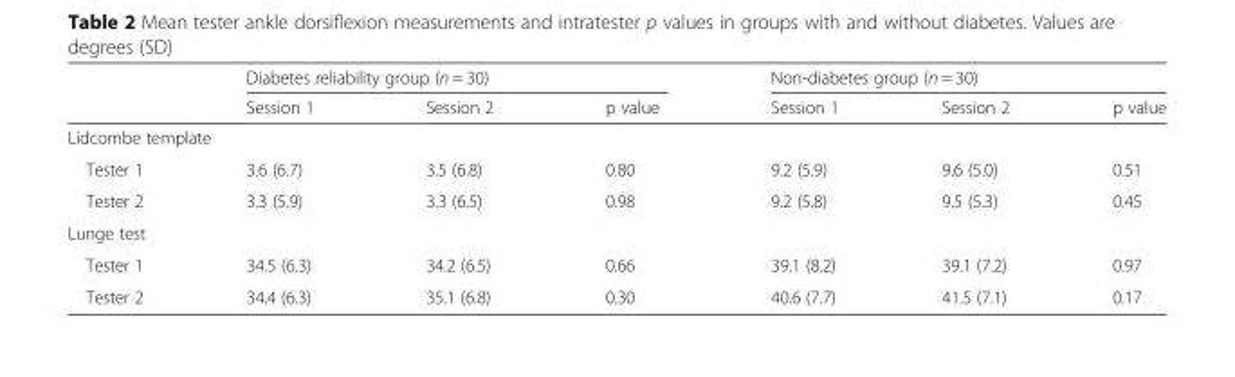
<table><thead><tr><td rowspan="2"></td><td colspan="3">Diabetes reliability group (n = 30)</td><td colspan="3">Non-diabetes group (n = 30)</td></tr><tr><td>Session 1</td><td>Session 2</td><td>p value</td><td>Session 1</td><td>Session 2</td><td>p value</td></tr></thead><tbody><tr><td colspan="7">Lidcombe template</td></tr><tr><td>Tester 1</td><td>3.6 (6.7)</td><td>3.5 (6.8)</td><td>0.80</td><td>9.2 (5.9)</td><td>9.6 (5.0)</td><td>0.51</td></tr><tr><td>Tester 2</td><td>3.3 (5.9)</td><td>3.3 (6.5)</td><td>0.98</td><td>9.2 (5.8)</td><td>9.5 (5.3)</td><td>0.45</td></tr><tr><td colspan="7">Lunge test</td></tr><tr><td>Tester 1</td><td>34.5 (6.3)</td><td>34.2 (6.5)</td><td>0.66</td><td>39.1 (8.2)</td><td>39.1 (7.2)</td><td>0.97</td></tr><tr><td>Tester 2</td><td>34.4 (6.3)</td><td>35.1 (6.8)</td><td>0.30</td><td>40.6 (7.7)</td><td>41.5 (7.1)</td><td>0.17</td></tr></tbody></table>